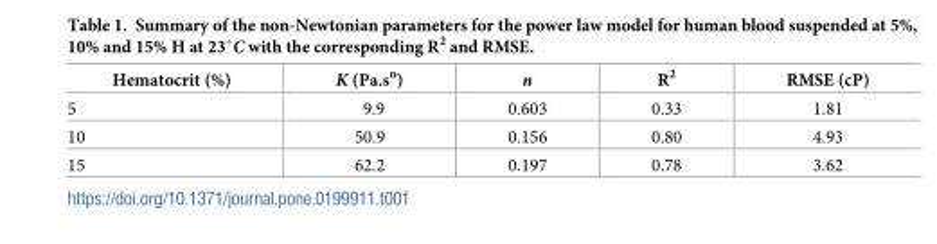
<table><thead><tr><td>Hematocrit (%)</td><td>K (Pa.s<sup>n</sup>)</td><td>n</td><td>R<sup>2</sup></td><td>RMSE (cP)</td></tr></thead><tbody><tr><td>5</td><td>9.9</td><td>0.603</td><td>0.33</td><td>1.81</td></tr><tr><td>10</td><td>50.9</td><td>0.156</td><td>0.80</td><td>4.93</td></tr><tr><td>15</td><td>62.2</td><td>0.197</td><td>0.78</td><td>3.62</td></tr></tbody></table>